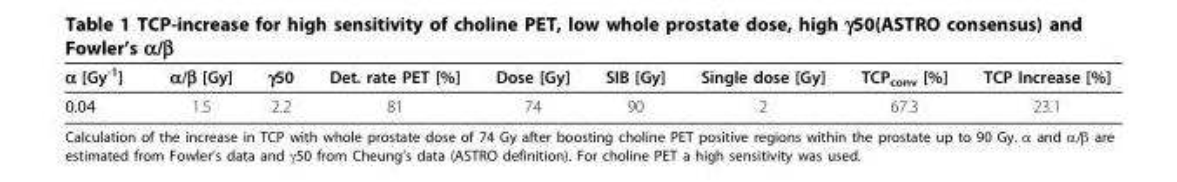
<table><thead><tr><td>α [Gy<sup>-1</sup>]</td><td>α/β [Gy]</td><td>γ50</td><td>Det. rate PET [%]</td><td>Dose [Gy]</td><td>SIB [Gy]</td><td>Single dose [Gy]</td><td>TCP<sub>conv</sub> [%]</td><td>TCP Increase [%]</td></tr></thead><tbody><tr><td>0.04</td><td>1.5</td><td>2.2</td><td>81</td><td>74</td><td>90</td><td>2</td><td>67.3</td><td>23.1</td></tr></tbody></table>